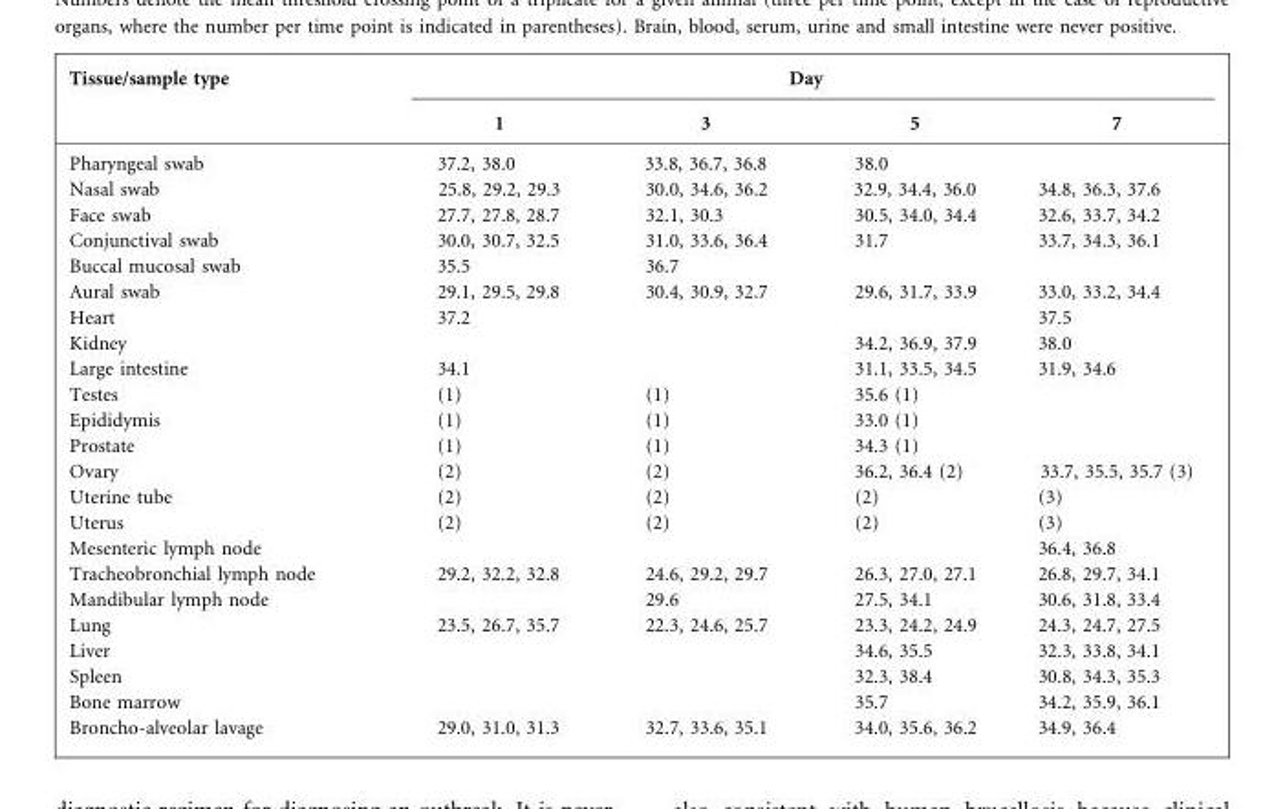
<table><thead><tr><td rowspan="2">Tissue/sample type</td><td colspan="4">Day</td></tr><tr><td>1</td><td>3</td><td>5</td><td>7</td></tr></thead><tbody><tr><td>Pharyngeal swab</td><td>37.2, 38.0</td><td>33.8, 36.7, 36.8</td><td>38.0</td><td></td></tr><tr><td>Nasal swab</td><td>25.8, 29.2, 29.3</td><td>30.0, 34.6, 36.2</td><td>32.9, 34.4, 36.0</td><td>34.8, 36.3, 37.6</td></tr><tr><td>Face swab</td><td>27.7, 27.8, 28.7</td><td>32.1, 30.3</td><td>30.5, 34.0, 34.4</td><td>32.6, 33.7, 34.2</td></tr><tr><td>Conjunctival swab</td><td>30.0, 30.7, 32.5</td><td>31.0, 33.6, 36.4</td><td>31.7</td><td>33.7, 34.3, 36.1</td></tr><tr><td>Buccal mucosal swab</td><td>35.5</td><td>36.7</td><td></td><td></td></tr><tr><td>Aural swab</td><td>29.1, 29.5, 29.8</td><td>30.4, 30.9, 32.7</td><td>29.6, 31.7, 33.9</td><td>33.0, 33.2, 34.4</td></tr><tr><td>Heart</td><td>37.2</td><td></td><td></td><td>37.5</td></tr><tr><td>Kidney</td><td></td><td></td><td>34.2, 36.9, 37.9</td><td>38.0</td></tr><tr><td>Large intestine</td><td>34.1</td><td></td><td>31.1, 33.5, 34.5</td><td>31.9, 34.6</td></tr><tr><td>Testes</td><td>(1)</td><td>(1)</td><td>35.6 (1)</td><td></td></tr><tr><td>Epididymis</td><td>(1)</td><td>(1)</td><td>33.0 (1)</td><td></td></tr><tr><td>Prostate</td><td>(1)</td><td>(1)</td><td>34.3 (1)</td><td></td></tr><tr><td>Ovary</td><td>(2)</td><td>(2)</td><td>36.2, 36.4 (2)</td><td>33.7, 35.5, 35.7 (3)</td></tr><tr><td>Uterine tube</td><td>(2)</td><td>(2)</td><td>(2)</td><td>(3)</td></tr><tr><td>Uterus</td><td>(2)</td><td>(2)</td><td>(2)</td><td>(3)</td></tr><tr><td>Mesenteric lymph node</td><td></td><td></td><td></td><td>36.4, 36.8</td></tr><tr><td>Tracheobronchial lymph node</td><td>29.2, 32.2, 32.8</td><td>24.6, 29.2, 29.7</td><td>26.3, 27.0, 27.1</td><td>26.8, 29.7, 34.1</td></tr><tr><td>Mandibular lymph node</td><td></td><td>29.6</td><td>27.5, 34.1</td><td>30.6, 31.8, 33.4</td></tr><tr><td>Lung</td><td>23.5, 26.7, 35.7</td><td>22.3, 24.6, 25.7</td><td>23.3, 24.2, 24.9</td><td>24.3, 24.7, 27.5</td></tr><tr><td>Liver</td><td></td><td></td><td>34.6, 35.5</td><td>32.3, 33.8, 34.1</td></tr><tr><td>Spleen</td><td></td><td></td><td>32.3, 38.4</td><td>30.8, 34.3, 35.3</td></tr><tr><td>Bone marrow</td><td></td><td></td><td>35.7</td><td>34.2, 35.9, 36.1</td></tr><tr><td>Broncho-alveolar lavage</td><td>29.0, 31.0, 31.3</td><td>32.7, 33.6, 35.1</td><td>34.0, 35.6, 36.2</td><td>34.9, 36.4</td></tr></tbody></table>